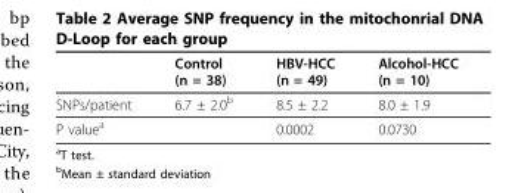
<table><thead><tr><td></td><td>Control (n = 38)</td><td>HBV-HCC (n = 49)</td><td>Alcohol-HCC (n = 10)</td></tr></thead><tbody><tr><td>SNPs/patient</td><td>6.7 ± 2.0<sup>b</sup></td><td>8.5 ± 2.2</td><td>8.0 ± 1.9</td></tr><tr><td>P value<sup>a</sup></td><td></td><td>0.0002</td><td>0.0730</td></tr></tbody></table>